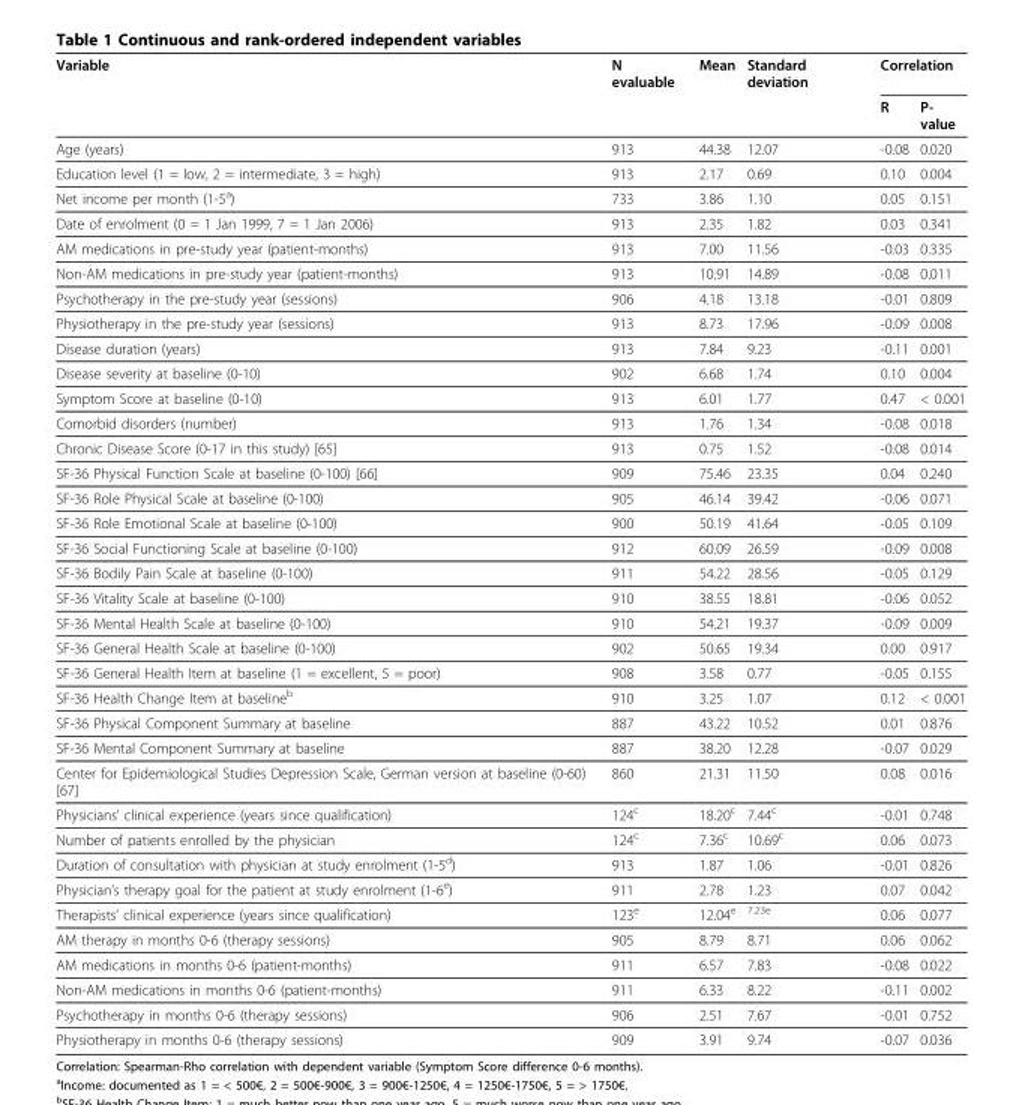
<table><thead><tr><td rowspan="2">Variable</td><td rowspan="2">N evaluable</td><td rowspan="2">Mean</td><td rowspan="2">Standard deviation</td><td colspan="2">Correlation</td></tr><tr><td>R</td><td>P- value</td></tr></thead><tbody><tr><td>Age (years)</td><td>913</td><td>44.38</td><td>12.07</td><td>-0.08</td><td>0.020</td></tr><tr><td>Education level (1 = low, 2 = intermediate, 3 = high)</td><td>913</td><td>2.17</td><td>0.69</td><td>0.10</td><td>0.004</td></tr><tr><td>Net income per month (1-5<sup>a</sup>)</td><td>733</td><td>3.86</td><td>1.10</td><td>0.05</td><td>0.151</td></tr><tr><td>Date of enrolment (0 = 1 Jan 1999, 7 = 1 Jan 2006)</td><td>913</td><td>2.35</td><td>1.82</td><td>0.03</td><td>0.341</td></tr><tr><td>AM medications in pre-study year (patient-months)</td><td>913</td><td>7.00</td><td>11.56</td><td>-0.03</td><td>0.335</td></tr><tr><td>Non-AM medications in pre-study year (patient-months)</td><td>913</td><td>10.91</td><td>14.89</td><td>-0.08</td><td>0.011</td></tr><tr><td>Psychotherapy in the pre-study year (sessions)</td><td>906</td><td>4.18</td><td>13.18</td><td>-0.01</td><td>0.809</td></tr><tr><td>Physiotherapy in the pre-study year (sessions)</td><td>913</td><td>8.73</td><td>17.96</td><td>-0.09</td><td>0.008</td></tr><tr><td>Disease duration (years)</td><td>913</td><td>7.84</td><td>9.23</td><td>-0.11</td><td>0.001</td></tr><tr><td>Disease severity at baseline (0-10)</td><td>902</td><td>6.68</td><td>1.74</td><td>0.10</td><td>0.004</td></tr><tr><td>Symptom Score at baseline (0-10)</td><td>913</td><td>6.01</td><td>1.77</td><td>0.47</td><td>&lt; 0.001</td></tr><tr><td>Comorbid disorders (number)</td><td>913</td><td>1.76</td><td>1.34</td><td>-0.08</td><td>0.018</td></tr><tr><td>Chronic Disease Score (0-17 in this study) [65]</td><td>913</td><td>0.75</td><td>1.52</td><td>-0.08</td><td>0.014</td></tr><tr><td>SF-36 Physical Function Scale at baseline (0-100) [66]</td><td>909</td><td>75.46</td><td>23.35</td><td>0.04</td><td>0.240</td></tr><tr><td>SF-36 Role Physical Scale at baseline (0-100)</td><td>905</td><td>46.14</td><td>39.42</td><td>-0.06</td><td>0.071</td></tr><tr><td>SF-36 Role Emotional Scale at baseline (0-100)</td><td>900</td><td>50.19</td><td>41.64</td><td>-0.05</td><td>0.109</td></tr><tr><td>SF-36 Social Functioning Scale at baseline (0-100)</td><td>912</td><td>60.09</td><td>26.59</td><td>-0.09</td><td>0.008</td></tr><tr><td>SF-36 Bodily Pain Scale at baseline (0-100)</td><td>911</td><td>54.22</td><td>28.56</td><td>-0.05</td><td>0.129</td></tr><tr><td>SF-36 Vitality Scale at baseline (0-100)</td><td>910</td><td>38.55</td><td>18.81</td><td>-0.06</td><td>0.052</td></tr><tr><td>SF-36 Mental Health Scale at baseline (0-100)</td><td>910</td><td>54.21</td><td>19.37</td><td>-0.09</td><td>0.009</td></tr><tr><td>SF-36 General Health Scale at baseline (0-100)</td><td>902</td><td>50.65</td><td>19.34</td><td>0.00</td><td>0.917</td></tr><tr><td>SF-36 General Health Item at baseline (1 = excellent, 5 = poor)</td><td>908</td><td>3.58</td><td>0.77</td><td>-0.05</td><td>0.155</td></tr><tr><td>SF-36 Health Change Item at baseline<sup>b</sup></td><td>910</td><td>3.25</td><td>1.07</td><td>0.12</td><td>&lt; 0.001</td></tr><tr><td>SF-36 Physical Component Summary at baseline</td><td>887</td><td>43.22</td><td>10.52</td><td>0.01</td><td>0.876</td></tr><tr><td>SF-36 Mental Component Summary at baseline</td><td>887</td><td>38.20</td><td>12.28</td><td>-0.07</td><td>0.029</td></tr><tr><td>Center for Epidemiological Studies Depression Scale, German version at baseline (0-60) [67]</td><td>860</td><td>21.31</td><td>11.50</td><td>0.08</td><td>0.016</td></tr><tr><td>Physicians’ clinical experience (years since qualification)</td><td>124<sup>c</sup></td><td>18.20<sup>c</sup></td><td>7.44<sup>c</sup></td><td>-0.01</td><td>0.748</td></tr><tr><td>Number of patients enrolled by the physician</td><td>124<sup>c</sup></td><td>7.36<sup>c</sup></td><td>10.69<sup>c</sup></td><td>0.06</td><td>0.073</td></tr><tr><td>Duration of consultation with physician at study enrolment (1-5<sup>d</sup>)</td><td>913</td><td>1.87</td><td>1.06</td><td>-0.01</td><td>0.826</td></tr><tr><td>Physician’s therapy goal for the patient at study enrolment (1-6<sup>e</sup>)</td><td>911</td><td>2.78</td><td>1.23</td><td>0.07</td><td>0.042</td></tr><tr><td>Therapists’ clinical experience (years since qualification)</td><td>123<sup>e</sup></td><td>12.04<sup>e</sup></td><td><sup>7.23e</sup></td><td>0.06</td><td>0.077</td></tr><tr><td>AM therapy in months 0-6 (therapy sessions)</td><td>905</td><td>8.79</td><td>8.71</td><td>0.06</td><td>0.062</td></tr><tr><td>AM medications in months 0-6 (patient-months)</td><td>911</td><td>6.57</td><td>7.83</td><td>-0.08</td><td>0.022</td></tr><tr><td>Non-AM medications in months 0-6 (patient-months)</td><td>911</td><td>6.33</td><td>8.22</td><td>-0.11</td><td>0.002</td></tr><tr><td>Psychotherapy in months 0-6 (therapy sessions)</td><td>906</td><td>2.51</td><td>7.67</td><td>-0.01</td><td>0.752</td></tr><tr><td>Physiotherapy in months 0-6 (therapy sessions)</td><td>909</td><td>3.91</td><td>9.74</td><td>-0.07</td><td>0.036</td></tr></tbody></table>